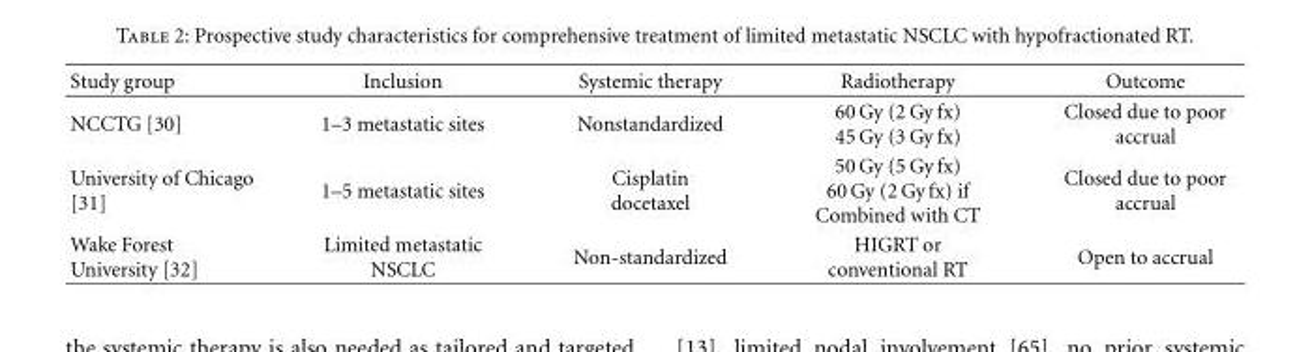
<table><thead><tr><td>Study group</td><td>Inclusion</td><td>Systemic therapy</td><td>Radiotherapy</td><td>Outcome</td></tr></thead><tbody><tr><td>NCCTG [30]</td><td>1–3 metastatic sites</td><td>Nonstandardized</td><td>60 Gy (2 Gy fx) 45 Gy (3 Gy fx)</td><td>Closed due to poor accrual</td></tr><tr><td>University of Chicago [31]</td><td>1–5 metastatic sites</td><td>Cisplatin docetaxel</td><td>50 Gy (5 Gy fx) 60 Gy (2 Gy fx) if Combined with CT</td><td>Closed due to poor accrual</td></tr><tr><td>Wake Forest University [32]</td><td>Limited metastatic NSCLC</td><td>Non-standardized</td><td>HIGRT or conventional RT</td><td>Open to accrual</td></tr></tbody></table>